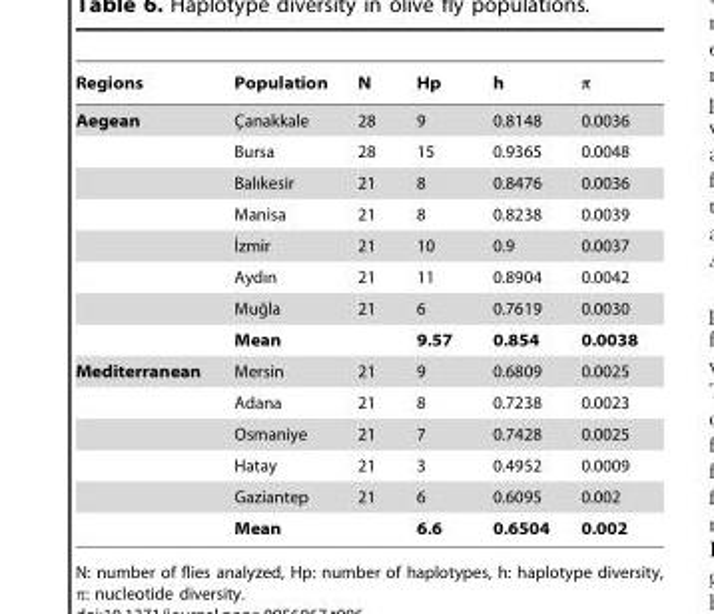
<table><thead><tr><td>Regions</td><td>Population</td><td>N</td><td>Hp</td><td>h</td><td>π</td></tr></thead><tbody><tr><td rowspan="8">Aegean</td><td>C¸anakkale</td><td>28</td><td>9</td><td>0.8148</td><td>0.0036</td></tr><tr><td>Bursa</td><td>28</td><td>15</td><td>0.9365</td><td>0.0048</td></tr><tr><td>Balıkesir</td><td>21</td><td>8</td><td>0.8476</td><td>0.0036</td></tr><tr><td>Manisa</td><td>21</td><td>8</td><td>0.8238</td><td>0.0039</td></tr><tr><td>I˙zmir</td><td>21</td><td>10</td><td>0.9</td><td>0.0037</td></tr><tr><td>Aydın</td><td>21</td><td>11</td><td>0.8904</td><td>0.0042</td></tr><tr><td>Mug˘la</td><td>21</td><td>6</td><td>0.7619</td><td>0.0030</td></tr><tr><td>Mean</td><td></td><td>9.57</td><td>0.854</td><td>0.0038</td></tr><tr><td rowspan="6">Mediterranean</td><td>Mersin</td><td>21</td><td>9</td><td>0.6809</td><td>0.0025</td></tr><tr><td>Adana</td><td>21</td><td>8</td><td>0.7238</td><td>0.0023</td></tr><tr><td>Osmaniye</td><td>21</td><td>7</td><td>0.7428</td><td>0.0025</td></tr><tr><td>Hatay</td><td>21</td><td>3</td><td>0.4952</td><td>0.0009</td></tr><tr><td>Gaziantep</td><td>21</td><td>6</td><td>0.6095</td><td>0.002</td></tr><tr><td>Mean</td><td></td><td>6.6</td><td>0.6504</td><td>0.002</td></tr></tbody></table>